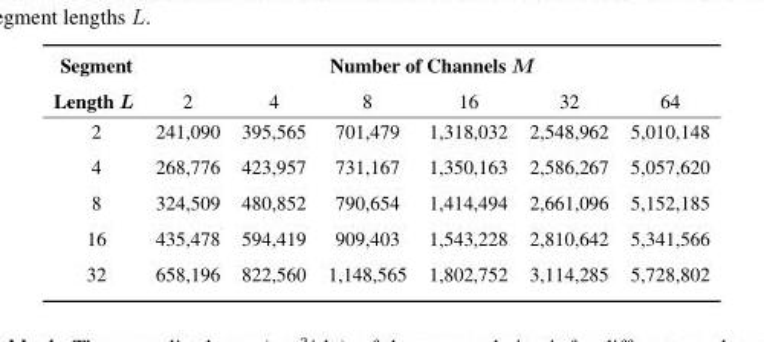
<table><thead><tr><td rowspan="2">Segment Length L</td><td colspan="6">Number of Channels M</td></tr><tr><td>2</td><td>4</td><td>8</td><td>16</td><td>32</td><td>64</td></tr></thead><tbody><tr><td>2</td><td>241,090</td><td>395,565</td><td>701,479</td><td>1,318,032</td><td>2,548,962</td><td>5,010,148</td></tr><tr><td>4</td><td>268,776</td><td>423,957</td><td>731,167</td><td>1,350,163</td><td>2,586,267</td><td>5,057,620</td></tr><tr><td>8</td><td>324,509</td><td>480,852</td><td>790,654</td><td>1,414,494</td><td>2,661,096</td><td>5,152,185</td></tr><tr><td>16</td><td>435,478</td><td>594,419</td><td>909,403</td><td>1,543,228</td><td>2,810,642</td><td>5,341,566</td></tr><tr><td>32</td><td>658,196</td><td>822,560</td><td>1,148,565</td><td>1,802,752</td><td>3,114,285</td><td>5,728,802</td></tr></tbody></table>